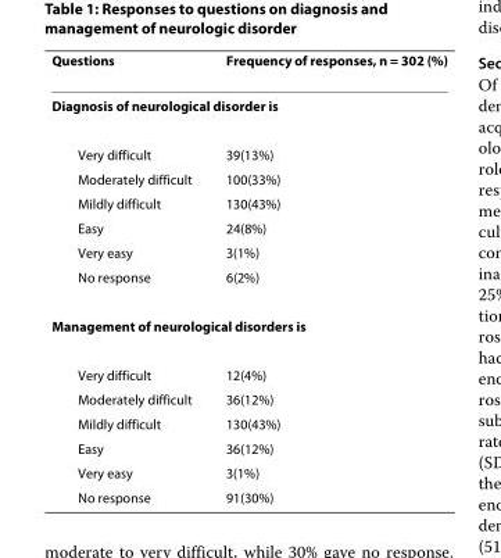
<table><thead><tr><td>Questions</td><td>Frequency of responses, n = 302 (%)</td></tr></thead><tbody><tr><td colspan="2">Diagnosis of neurological disorder is</td></tr><tr><td>Very difficult</td><td>39(13%)</td></tr><tr><td>Moderately difficult</td><td>100(33%)</td></tr><tr><td>Mildly difficult</td><td>130(43%)</td></tr><tr><td>Easy</td><td>24(8%)</td></tr><tr><td>Very easy</td><td>3(1%)</td></tr><tr><td>No response</td><td>6(2%)</td></tr><tr><td colspan="2">Management of neurological disorders is</td></tr><tr><td>Very difficult</td><td>12(4%)</td></tr><tr><td>Moderately difficult</td><td>36(12%)</td></tr><tr><td>Mildly difficult</td><td>130(43%)</td></tr><tr><td>Easy</td><td>36(12%)</td></tr><tr><td>Very easy</td><td>3(1%)</td></tr><tr><td>No response</td><td>91(30%)</td></tr></tbody></table>